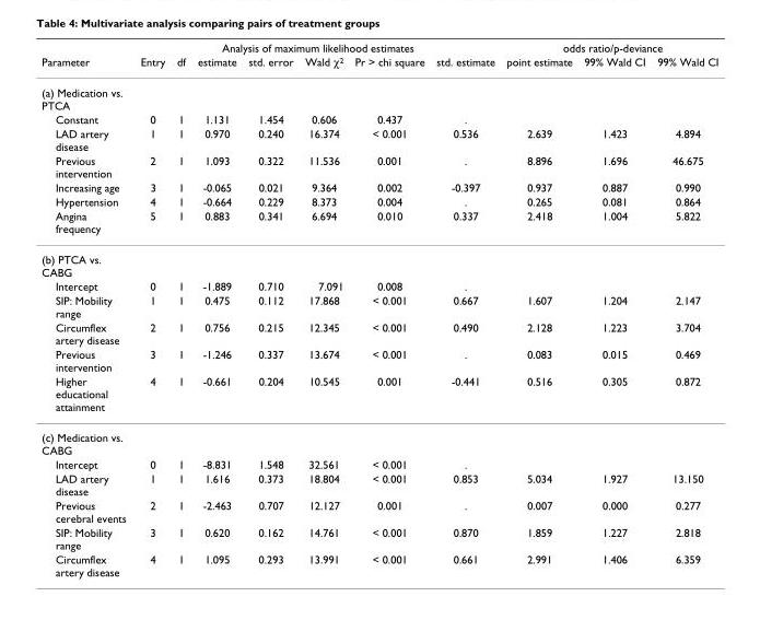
<table><thead><tr><td rowspan="2">Parameter</td><td colspan="7">Analysis of maximum likelihood estimates</td><td colspan="3">odds ratio/p-deviance</td></tr><tr><td>Entry</td><td>df</td><td>estimate</td><td>std. error</td><td>Wald χ<sup>2</sup></td><td>Pr &gt; chi square</td><td>std. estimate</td><td>point estimate</td><td>99% Wald CI</td><td>99% Wald CI</td></tr></thead><tbody><tr><td colspan="11">(a) Medication vs. PTCA</td></tr><tr><td>Constant</td><td>0</td><td>1</td><td>1.131</td><td>1.454</td><td>0.606</td><td>0.437</td><td>.</td><td></td><td></td><td></td></tr><tr><td>LAD artery disease</td><td>1</td><td>1</td><td>0.970</td><td>0.240</td><td>16.374</td><td>&lt; 0.001</td><td>0.536</td><td>2.639</td><td>1.423</td><td>4.894</td></tr><tr><td>Previous intervention</td><td>2</td><td>1</td><td>1.093</td><td>0.322</td><td>11.536</td><td>0.001</td><td>.</td><td>8.896</td><td>1.696</td><td>46.675</td></tr><tr><td>Increasing age</td><td>3</td><td>1</td><td>-0.065</td><td>0.021</td><td>9.364</td><td>0.002</td><td>-0.397</td><td>0.937</td><td>0.887</td><td>0.990</td></tr><tr><td>Hypertension</td><td>4</td><td>1</td><td>-0.664</td><td>0.229</td><td>8.373</td><td>0.004</td><td>.</td><td>0.265</td><td>0.081</td><td>0.864</td></tr><tr><td>Angina frequency</td><td>5</td><td>1</td><td>0.883</td><td>0.341</td><td>6.694</td><td>0.010</td><td>0.337</td><td>2.418</td><td>1.004</td><td>5.822</td></tr><tr><td colspan="11">(b) PTCA vs. CABG</td></tr><tr><td>Intercept</td><td>0</td><td>1</td><td>-1.889</td><td>0.710</td><td>7.091</td><td>0.008</td><td>.</td><td></td><td></td><td></td></tr><tr><td>SIP: Mobility range</td><td>1</td><td>1</td><td>0.475</td><td>0.112</td><td>17.868</td><td>&lt; 0.001</td><td>0.667</td><td>1.607</td><td>1.204</td><td>2.147</td></tr><tr><td>Circumflex artery disease</td><td>2</td><td>1</td><td>0.756</td><td>0.215</td><td>12.345</td><td>&lt; 0.001</td><td>0.490</td><td>2.128</td><td>1.223</td><td>3.704</td></tr><tr><td>Previous intervention</td><td>3</td><td>1</td><td>-1.246</td><td>0.337</td><td>13.674</td><td>&lt; 0.001</td><td>.</td><td>0.083</td><td>0.015</td><td>0.469</td></tr><tr><td>Higher educational attainment</td><td>4</td><td>1</td><td>-0.661</td><td>0.204</td><td>10.545</td><td>0.001</td><td>-0.441</td><td>0.516</td><td>0.305</td><td>0.872</td></tr><tr><td colspan="11">(c) Medication vs. CABG</td></tr><tr><td>Intercept</td><td>0</td><td>1</td><td>-8.831</td><td>1.548</td><td>32.561</td><td>&lt; 0.001</td><td>.</td><td></td><td></td><td></td></tr><tr><td>LAD artery disease</td><td>1</td><td>1</td><td>1.616</td><td>0.373</td><td>18.804</td><td>&lt; 0.001</td><td>0.853</td><td>5.034</td><td>1.927</td><td>13.150</td></tr><tr><td>Previous cerebral events</td><td>2</td><td>1</td><td>-2.463</td><td>0.707</td><td>12.127</td><td>0.001</td><td>.</td><td>0.007</td><td>0.000</td><td>0.277</td></tr><tr><td>SIP: Mobility range</td><td>3</td><td>1</td><td>0.620</td><td>0.162</td><td>14.761</td><td>&lt; 0.001</td><td>0.870</td><td>1.859</td><td>1.227</td><td>2.818</td></tr><tr><td>Circumflex artery disease</td><td>4</td><td>1</td><td>1.095</td><td>0.293</td><td>13.991</td><td>&lt; 0.001</td><td>0.661</td><td>2.991</td><td>1.406</td><td>6.359</td></tr></tbody></table>